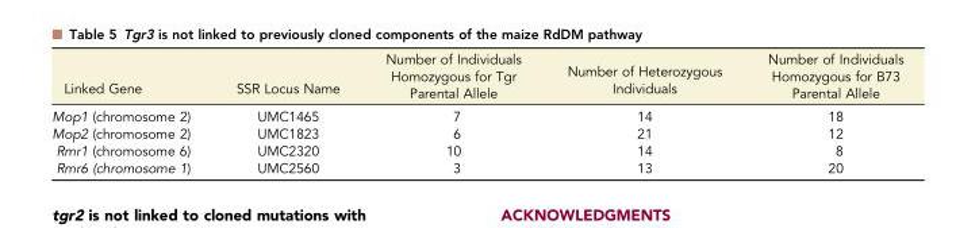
<table><thead><tr><td>Linked Gene</td><td>SSR Locus Name</td><td>Number of Individuals Homozygous for Tgr Parental Allele</td><td>Number of Heterozygous Individuals</td><td>Number of Individuals Homozygous for B73 Parental Allele</td></tr></thead><tbody><tr><td>Mop1 (chromosome 2)</td><td>UMC1465</td><td>7</td><td>14</td><td>18</td></tr><tr><td>Mop2 (chromosome 2)</td><td>UMC1823</td><td>6</td><td>21</td><td>12</td></tr><tr><td>Rmr1 (chromosome 6)</td><td>UMC2320</td><td>10</td><td>14</td><td>8</td></tr><tr><td>Rmr6 (chromosome 1)</td><td>UMC2560</td><td>3</td><td>13</td><td>20</td></tr></tbody></table>